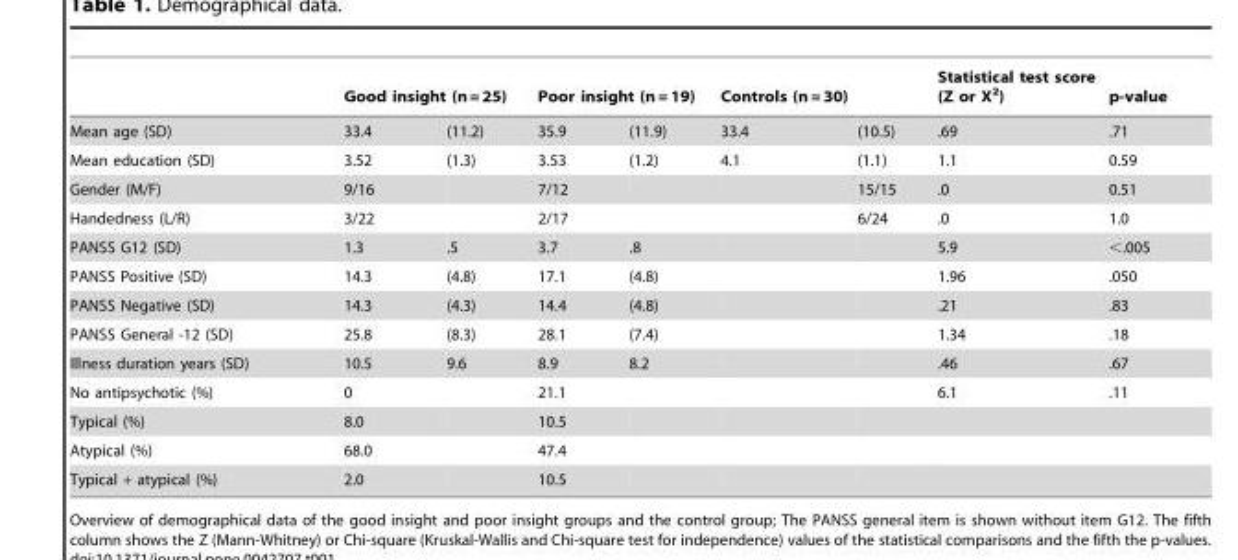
<table><thead><tr><td rowspan="2">Mean age (SD)</td><td colspan="2">Good insight (n = 25)</td><td colspan="2">Poor insight (n = 19)</td><td rowspan="2">Controls (n = 30) 33.4</td><td rowspan="2">(10.5)</td><td rowspan="2">Statistical test score (Z or X<sup>2</sup>) .69</td><td rowspan="2">p-value .71</td></tr><tr><td>33.4</td><td>(11.2)</td><td>35.9</td><td>(11.9)</td></tr></thead><tbody><tr><td>Mean education (SD)</td><td>3.52</td><td>(1.3)</td><td>3.53</td><td>(1.2)</td><td>4.1</td><td>(1.1)</td><td>1.1</td><td>0.59</td></tr><tr><td>Gender (M/F)</td><td>9/16</td><td></td><td>7/12</td><td></td><td></td><td>15/15</td><td>.0</td><td>0.51</td></tr><tr><td>Handedness (L/R)</td><td>3/22</td><td></td><td>2/17</td><td></td><td></td><td>6/24</td><td>.0</td><td>1.0</td></tr><tr><td>PANSS G12 (SD)</td><td>1.3</td><td>.5</td><td>3.7</td><td>.8</td><td></td><td></td><td>5.9</td><td>&lt;.005</td></tr><tr><td>PANSS Positive (SD)</td><td>14.3</td><td>(4.8)</td><td>17.1</td><td>(4.8)</td><td></td><td></td><td>1.96</td><td>.050</td></tr><tr><td>PANSS Negative (SD)</td><td>14.3</td><td>(4.3)</td><td>14.4</td><td>(4.8)</td><td></td><td></td><td>.21</td><td>.83</td></tr><tr><td>PANSS General -12 (SD)</td><td>25.8</td><td>(8.3)</td><td>28.1</td><td>(7.4)</td><td></td><td></td><td>1.34</td><td>.18</td></tr><tr><td>Illness duration years (SD)</td><td>10.5</td><td>9.6</td><td>8.9</td><td>8.2</td><td></td><td></td><td>.46</td><td>.67</td></tr><tr><td>No antipsychotic (%)</td><td>0</td><td></td><td>21.1</td><td></td><td></td><td></td><td>6.1</td><td>.11</td></tr><tr><td>Typical (%)</td><td>8.0</td><td></td><td>10.5</td><td></td><td></td><td></td><td></td><td></td></tr><tr><td>Atypical (%)</td><td>68.0</td><td></td><td>47.4</td><td></td><td></td><td></td><td></td><td></td></tr><tr><td>Typical + atypical (%)</td><td>2.0</td><td></td><td>10.5</td><td></td><td></td><td></td><td></td><td></td></tr></tbody></table>